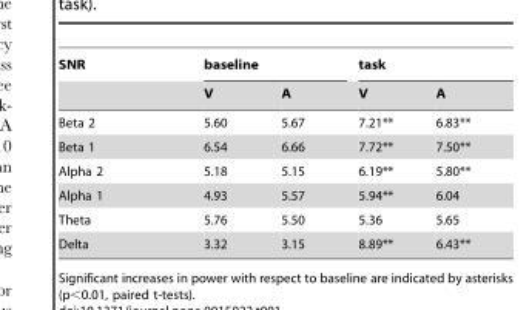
<table><thead><tr><td rowspan="2">SNR</td><td colspan="2">baseline</td><td colspan="2">task</td></tr><tr><td>V</td><td>A</td><td>V</td><td>A</td></tr></thead><tbody><tr><td>Beta 2</td><td>5.60</td><td>5.67</td><td>7.21**</td><td>6.83**</td></tr><tr><td>Beta 1</td><td>6.54</td><td>6.66</td><td>7.72**</td><td>7.50**</td></tr><tr><td>Alpha 2</td><td>5.18</td><td>5.15</td><td>6.19**</td><td>5.80**</td></tr><tr><td>Alpha 1</td><td>4.93</td><td>5.57</td><td>5.94**</td><td>6.04</td></tr><tr><td>Theta</td><td>5.76</td><td>5.50</td><td>5.36</td><td>5.65</td></tr><tr><td>Delta</td><td>3.32</td><td>3.15</td><td>8.89**</td><td>6.43**</td></tr></tbody></table>